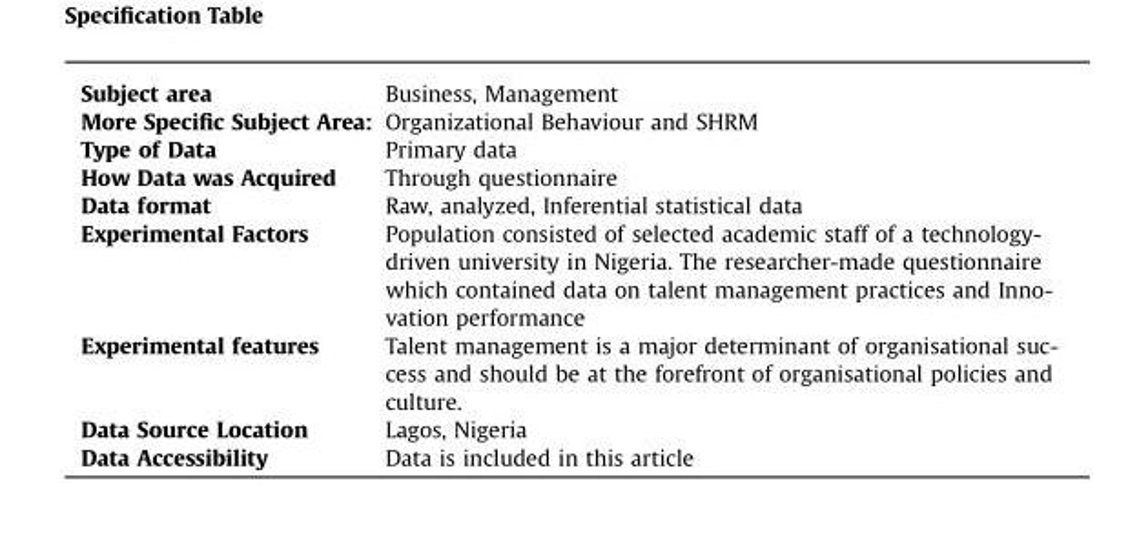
<table><tbody><tr><td>Subject area</td><td>Business, Management</td></tr><tr><td>More Specific Subject Area:</td><td>Organizational Behaviour and SHRM</td></tr><tr><td>Type of Data</td><td>Primary data</td></tr><tr><td>How Data was Acquired</td><td>Through questionnaire</td></tr><tr><td>Data format</td><td>Raw, analyzed, Inferential statistical data</td></tr><tr><td>Experimental Factors</td><td>Population consisted of selected academic staff of a technology- driven university in Nigeria. The researcher-made questionnaire which contained data on talent management practices and Inno- vation performance</td></tr><tr><td>Experimental features</td><td>Talent management is a major determinant of organisational suc- cess and should be at the forefront of organisational policies and culture.</td></tr><tr><td>Data Source Location</td><td>Lagos, Nigeria</td></tr><tr><td>Data Accessibility</td><td>Data is included in this article</td></tr></tbody></table>